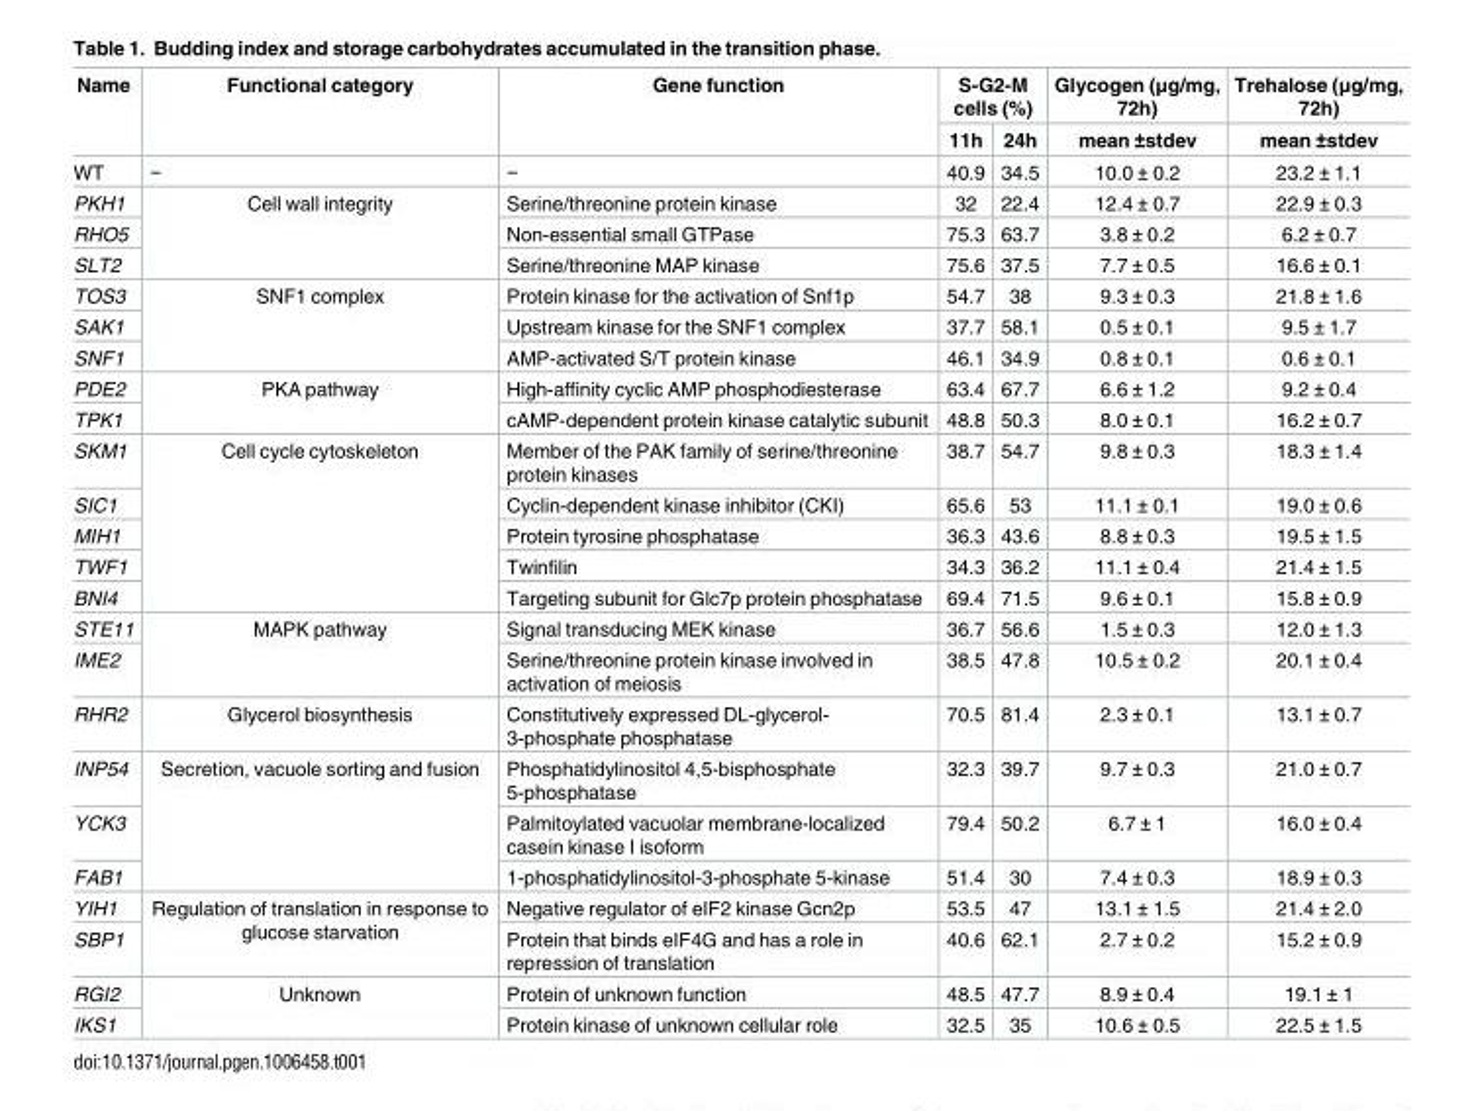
<table><thead><tr><td rowspan="2">Name</td><td rowspan="2">Functional category</td><td rowspan="2">Gene function</td><td colspan="2">S-G2-M cells (%)</td><td rowspan="2">Glycogen (μg/mg, 72h) mean ±stdev</td><td rowspan="2">Trehalose (μg/mg, 72h) mean ±stdev</td></tr><tr><td>11h</td><td>24h</td></tr></thead><tbody><tr><td>WT</td><td>−</td><td>−</td><td>40.9</td><td>34.5</td><td>10.0 ± 0.2</td><td>23.2 ± 1.1</td></tr><tr><td>PKH1</td><td rowspan="3">Cell wall integrity</td><td>Serine/threonine protein kinase</td><td>32</td><td>22.4</td><td>12.4 ± 0.7</td><td>22.9 ± 0.3</td></tr><tr><td>RHO5</td><td>Non-essential small GTPase</td><td>75.3</td><td>63.7</td><td>3.8 ± 0.2</td><td>6.2 ± 0.7</td></tr><tr><td>SLT2</td><td>Serine/threonine MAP kinase</td><td>75.6</td><td>37.5</td><td>7.7 ± 0.5</td><td>16.6 ± 0.1</td></tr><tr><td>TOS3</td><td rowspan="3">SNF1 complex</td><td>Protein kinase for the activation of Snf1p</td><td>54.7</td><td>38</td><td>9.3 ± 0.3</td><td>21.8 ± 1.6</td></tr><tr><td>SAK1</td><td>Upstream kinase for the SNF1 complex</td><td>37.7</td><td>58.1</td><td>0.5 ± 0.1</td><td>9.5 ± 1.7</td></tr><tr><td>SNF1</td><td>AMP-activated S/T protein kinase</td><td>46.1</td><td>34.9</td><td>0.8 ± 0.1</td><td>0.6 ± 0.1</td></tr><tr><td>PDE2</td><td rowspan="2">PKA pathway</td><td>High-affinity cyclic AMP phosphodiesterase</td><td>63.4</td><td>67.7</td><td>6.6 ± 1.2</td><td>9.2 ± 0.4</td></tr><tr><td>TPK1</td><td>cAMP-dependent protein kinase catalytic subunit</td><td>48.8</td><td>50.3</td><td>8.0 ± 0.1</td><td>16.2 ± 0.7</td></tr><tr><td>SKM1</td><td rowspan="5">Cell cycle cytoskeleton</td><td>Member of the PAK family of serine/threonine protein kinases</td><td>38.7</td><td>54.7</td><td>9.8 ± 0.3</td><td>18.3 ± 1.4</td></tr><tr><td>SIC1</td><td>Cyclin-dependent kinase inhibitor (CKI)</td><td>65.6</td><td>53</td><td>11.1 ± 0.1</td><td>19.0 ± 0.6</td></tr><tr><td>MIH1</td><td>Protein tyrosine phosphatase</td><td>36.3</td><td>43.6</td><td>8.8 ± 0.3</td><td>19.5 ± 1.5</td></tr><tr><td>TWF1</td><td>Twinfilin</td><td>34.3</td><td>36.2</td><td>11.1 ± 0.4</td><td>21.4 ± 1.5</td></tr><tr><td>BNI4</td><td>Targeting subunit for Glc7p protein phosphatase</td><td>69.4</td><td>71.5</td><td>9.6 ± 0.1</td><td>15.8 ± 0.9</td></tr><tr><td>STE11</td><td rowspan="2">MAPK pathway</td><td>Signal transducing MEK kinase</td><td>36.7</td><td>56.6</td><td>1.5 ± 0.3</td><td>12.0 ± 1.3</td></tr><tr><td>IME2</td><td>Serine/threonine protein kinase involved in activation of meiosis</td><td>38.5</td><td>47.8</td><td>10.5 ± 0.2</td><td>20.1 ± 0.4</td></tr><tr><td>RHR2</td><td>Glycerol biosynthesis</td><td>Constitutively expressed DL-glycerol- 3-phosphate phosphatase</td><td>70.5</td><td>81.4</td><td>2.3 ± 0.1</td><td>13.1 ± 0.7</td></tr><tr><td>INP54</td><td rowspan="3">Secretion, vacuole sorting and fusion</td><td>Phosphatidylinositol 4,5-bisphosphate 5-phosphatase</td><td>32.3</td><td>39.7</td><td>9.7 ± 0.3</td><td>21.0 ± 0.7</td></tr><tr><td>YCK3</td><td>Palmitoylated vacuolar membrane-localized casein kinase I isoform</td><td>79.4</td><td>50.2</td><td>6.7 ± 1</td><td>16.0 ± 0.4</td></tr><tr><td>FAB1</td><td>1-phosphatidylinositol-3-phosphate 5-kinase</td><td>51.4</td><td>30</td><td>7.4 ± 0.3</td><td>18.9 ± 0.3</td></tr><tr><td>YIH1</td><td rowspan="2">Regulation of translation in response to glucose starvation</td><td>Negative regulator of eIF2 kinase Gcn2p</td><td>53.5</td><td>47</td><td>13.1 ± 1.5</td><td>21.4 ± 2.0</td></tr><tr><td>SBP1</td><td>Protein that binds eIF4G and has a role in repression of translation</td><td>40.6</td><td>62.1</td><td>2.7 ± 0.2</td><td>15.2 ± 0.9</td></tr><tr><td>RGI2</td><td rowspan="2">Unknown</td><td>Protein of unknown function</td><td>48.5</td><td>47.7</td><td>8.9 ± 0.4</td><td>19.1 ± 1</td></tr><tr><td>IKS1</td><td>Protein kinase of unknown cellular role</td><td>32.5</td><td>35</td><td>10.6 ± 0.5</td><td>22.5 ± 1.5</td></tr></tbody></table>